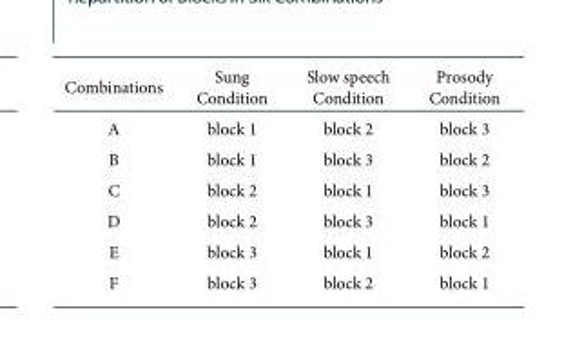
<table><thead><tr><td>Combinations</td><td>Sung Condition</td><td>Slow speech Condition</td><td>Prosody Condition</td></tr></thead><tbody><tr><td>A</td><td>block 1</td><td>block 2</td><td>block 3</td></tr><tr><td>B</td><td>block 1</td><td>block 3</td><td>block 2</td></tr><tr><td>C</td><td>block 2</td><td>block 1</td><td>block 3</td></tr><tr><td>D</td><td>block 2</td><td>block 3</td><td>block 1</td></tr><tr><td>E</td><td>block 3</td><td>block 1</td><td>block 2</td></tr><tr><td>F</td><td>block 3</td><td>block 2</td><td>block 1</td></tr></tbody></table>